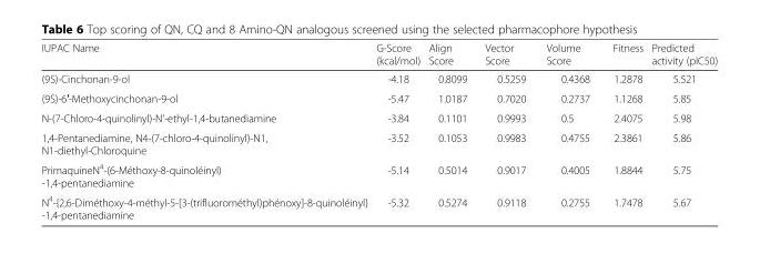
<table><thead><tr><td>IUPAC Name</td><td>G-Score (kcal/mol)</td><td>Align Score</td><td>Vector Score</td><td>Volume Score</td><td>Fitness</td><td>Predicted activity (pIC50)</td></tr></thead><tbody><tr><td>(9S)-Cinchonan-9-ol</td><td>-4.18</td><td>0.8099</td><td>0.5259</td><td>0.4368</td><td>1.2878</td><td>5.521</td></tr><tr><td>(9S)-6′-Methoxycinchonan-9-ol</td><td>-5.47</td><td>1.0187</td><td>0.7020</td><td>0.2737</td><td>1.1268</td><td>5.85</td></tr><tr><td>N-(7-Chloro-4-quinolinyl)-N’-ethyl-1,4-butanediamine</td><td>-3.84</td><td>0.1101</td><td>0.9993</td><td>0.5</td><td>2.4075</td><td>5.98</td></tr><tr><td>1,4-Pentanediamine, N4-(7-chloro-4-quinolinyl)-N1, N1-diethyl-Chloroquine</td><td>-3.52</td><td>0.1053</td><td>0.9983</td><td>0.4755</td><td>2.3861</td><td>5.86</td></tr><tr><td>PrimaquineN<sup>4</sup>-(6-Méthoxy-8-quinoléinyl) -1,4-pentanediamine</td><td>-5.14</td><td>0.5014</td><td>0.9017</td><td>0.4005</td><td>1.8844</td><td>5.75</td></tr><tr><td>N<sup>4</sup>-{2,6-Diméthoxy-4-méthyl-5-[3-(trifluorométhyl)phénoxy]-8-quinoléinyl} -1,4-pentanediamine</td><td>-5.32</td><td>0.5274</td><td>0.9118</td><td>0.2755</td><td>1.7478</td><td>5.67</td></tr></tbody></table>